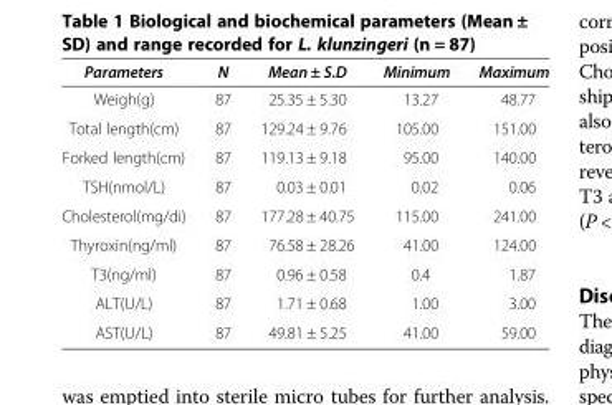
<table><thead><tr><td>Parameters</td><td>N</td><td>Mean ± S.D</td><td>Minimum</td><td>Maximum</td></tr></thead><tbody><tr><td>Weigh(g)</td><td>87</td><td>25.35 ± 5.30</td><td>13.27</td><td>48.77</td></tr><tr><td>Total length(cm)</td><td>87</td><td>129.24 ± 9.76</td><td>105.00</td><td>151.00</td></tr><tr><td>Forked length(cm)</td><td>87</td><td>119.13 ± 9.18</td><td>95.00</td><td>140.00</td></tr><tr><td>TSH(nmol/L)</td><td>87</td><td>0.03 ± 0.01</td><td>0.02</td><td>0.06</td></tr><tr><td>Cholesterol(mg/di)</td><td>87</td><td>177.28 ± 40.75</td><td>115.00</td><td>241.00</td></tr><tr><td>Thyroxin(ng/ml)</td><td>87</td><td>76.58 ± 28.26</td><td>41.00</td><td>124.00</td></tr><tr><td>T3(ng/ml)</td><td>87</td><td>0.96 ± 0.58</td><td>0.4</td><td>1.87</td></tr><tr><td>ALT(U/L)</td><td>87</td><td>1.71 ± 0.68</td><td>1.00</td><td>3.00</td></tr><tr><td>AST(U/L)</td><td>87</td><td>49.81 ± 5.25</td><td>41.00</td><td>59.00</td></tr></tbody></table>